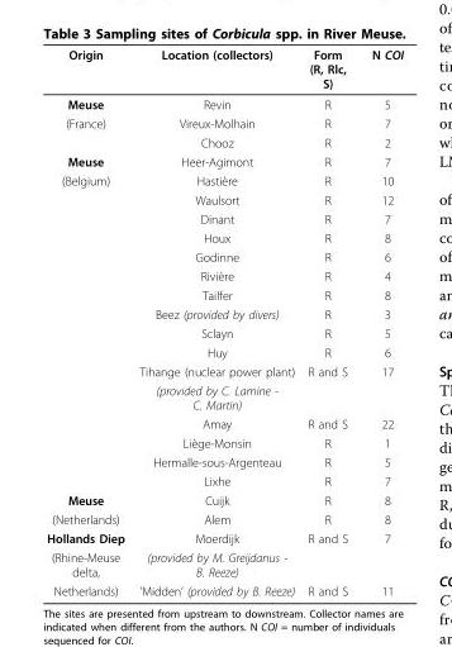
<table><thead><tr><td>Origin</td><td>Location (collectors)</td><td>Form (R, Rlc, S)</td><td>N COI</td></tr></thead><tbody><tr><td>Meuse</td><td>Revin</td><td>R</td><td>5</td></tr><tr><td rowspan="2">(France)</td><td>Vireux-Molhain</td><td>R</td><td>7</td></tr><tr><td>Chooz</td><td>R</td><td>2</td></tr><tr><td>Meuse</td><td>Heer-Agimont</td><td>R</td><td>7</td></tr><tr><td rowspan="16">(Belgium)</td><td>Hastière</td><td>R</td><td>10</td></tr><tr><td>Waulsort</td><td>R</td><td>12</td></tr><tr><td>Dinant</td><td>R</td><td>7</td></tr><tr><td>Houx</td><td>R</td><td>8</td></tr><tr><td>Godinne</td><td>R</td><td>6</td></tr><tr><td>Rivière</td><td>R</td><td>4</td></tr><tr><td>Tailfer</td><td>R</td><td>8</td></tr><tr><td>Beez (provided by divers)</td><td>R</td><td>3</td></tr><tr><td>Sclayn</td><td>R</td><td>5</td></tr><tr><td>Huy</td><td>R</td><td>6</td></tr><tr><td>Tihange (nuclear power plant)</td><td>R and S</td><td>17</td></tr><tr><td>(provided by C. Lamine - C. Martin)</td><td></td><td></td></tr><tr><td>Amay</td><td>R and S</td><td>22</td></tr><tr><td>Liège-Monsin</td><td>R</td><td>1</td></tr><tr><td>Hermalle-sous-Argenteau</td><td>R</td><td>5</td></tr><tr><td>Lixhe</td><td>R</td><td>7</td></tr><tr><td>Meuse</td><td>Cuijk</td><td>R</td><td>8</td></tr><tr><td>(Netherlands)</td><td>Alem</td><td>R</td><td>8</td></tr><tr><td>Hollands Diep</td><td>Moerdijk</td><td>R and S</td><td>7</td></tr><tr><td>(Rhine-Meuse delta,</td><td>(provided by M. Greijdanus - B. Reeze)</td><td></td><td></td></tr><tr><td>Netherlands)</td><td>’Midden’ (provided by B. Reeze)</td><td>R and S</td><td>11</td></tr></tbody></table>